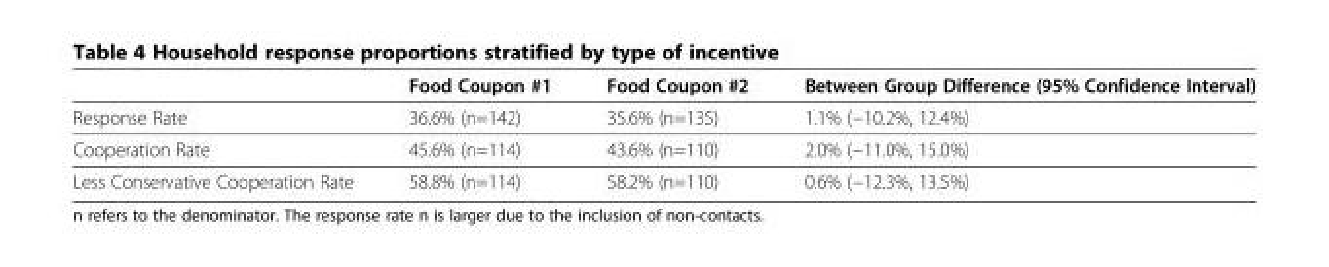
<table><thead><tr><td></td><td>Food Coupon #1</td><td>Food Coupon #2</td><td>Between Group Difference (95% Confidence Interval)</td></tr></thead><tbody><tr><td>Response Rate</td><td>36.6% (n=142)</td><td>35.6% (n=135)</td><td>1.1% (−10.2%, 12.4%)</td></tr><tr><td>Cooperation Rate</td><td>45.6% (n=114)</td><td>43.6% (n=110)</td><td>2.0% (−11.0%, 15.0%)</td></tr><tr><td>Less Conservative Cooperation Rate</td><td>58.8% (n=114)</td><td>58.2% (n=110)</td><td>0.6% (−12.3%, 13.5%)</td></tr></tbody></table>